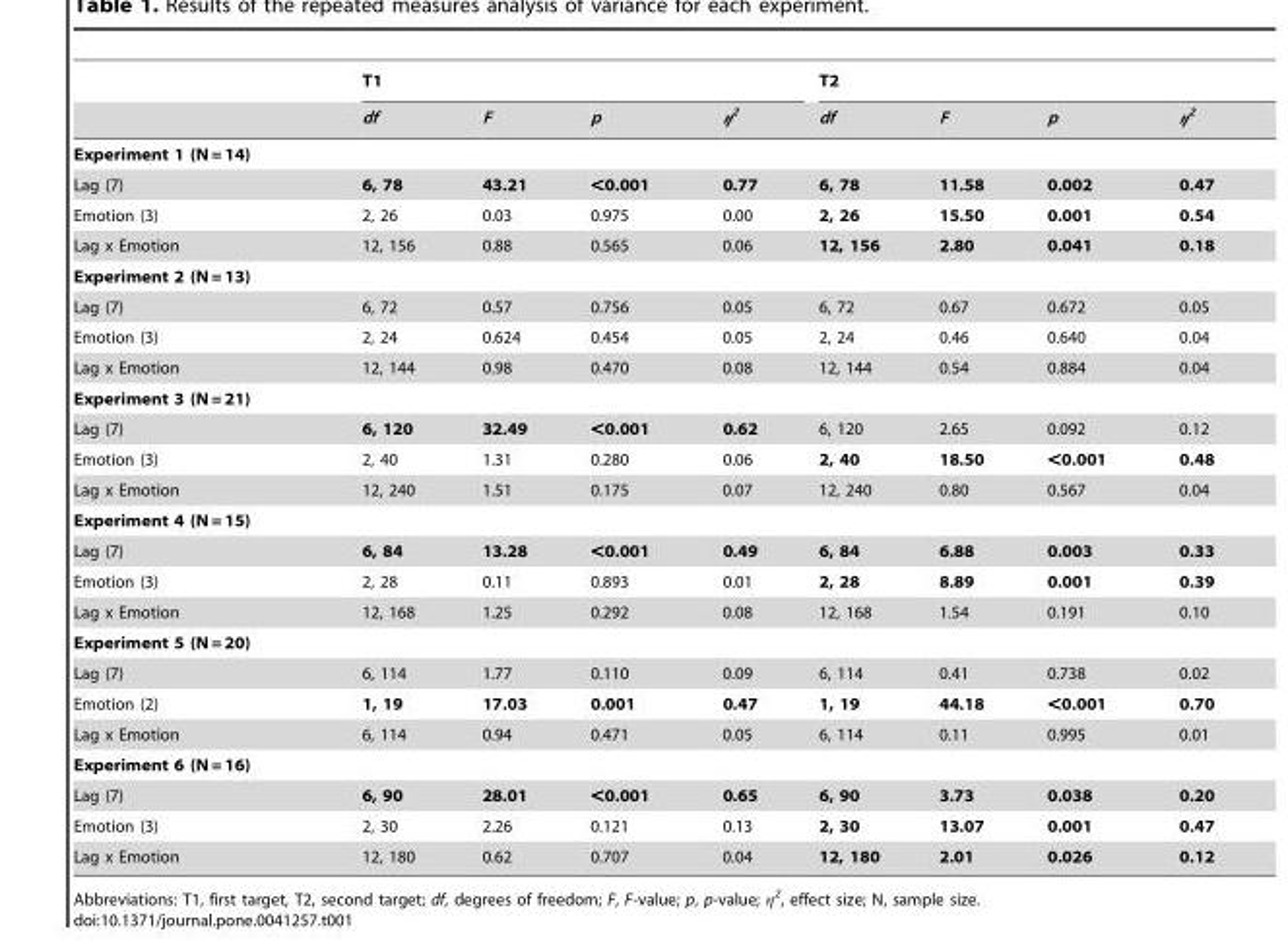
<table><thead><tr><td rowspan="2"></td><td colspan="4">T1</td><td colspan="4">T2</td></tr><tr><td>df</td><td>F</td><td>p</td><td>η<sup>2</sup></td><td>df</td><td>F</td><td>p</td><td>η<sup>2</sup></td></tr></thead><tbody><tr><td colspan="9">Experiment 1 (N = 14)</td></tr><tr><td>Lag (7)</td><td>6, 78</td><td>43.21</td><td>&lt;0.001</td><td>0.77</td><td>6, 78</td><td>11.58</td><td>0.002</td><td>0.47</td></tr><tr><td>Emotion (3)</td><td>2, 26</td><td>0.03</td><td>0.975</td><td>0.00</td><td>2, 26</td><td>15.50</td><td>0.001</td><td>0.54</td></tr><tr><td>Lag x Emotion</td><td>12, 156</td><td>0.88</td><td>0.565</td><td>0.06</td><td>12, 156</td><td>2.80</td><td>0.041</td><td>0.18</td></tr><tr><td colspan="9">Experiment 2 (N = 13)</td></tr><tr><td>Lag (7)</td><td>6, 72</td><td>0.57</td><td>0.756</td><td>0.05</td><td>6, 72</td><td>0.67</td><td>0.672</td><td>0.05</td></tr><tr><td>Emotion (3)</td><td>2, 24</td><td>0.624</td><td>0.454</td><td>0.05</td><td>2, 24</td><td>0.46</td><td>0.640</td><td>0.04</td></tr><tr><td>Lag x Emotion</td><td>12, 144</td><td>0.98</td><td>0.470</td><td>0.08</td><td>12, 144</td><td>0.54</td><td>0.884</td><td>0.04</td></tr><tr><td colspan="9">Experiment 3 (N = 21)</td></tr><tr><td>Lag (7)</td><td>6, 120</td><td>32.49</td><td>&lt;0.001</td><td>0.62</td><td>6, 120</td><td>2.65</td><td>0.092</td><td>0.12</td></tr><tr><td>Emotion (3)</td><td>2, 40</td><td>1.31</td><td>0.280</td><td>0.06</td><td>2, 40</td><td>18.50</td><td>&lt;0.001</td><td>0.48</td></tr><tr><td>Lag x Emotion</td><td>12, 240</td><td>1.51</td><td>0.175</td><td>0.07</td><td>12, 240</td><td>0.80</td><td>0.567</td><td>0.04</td></tr><tr><td colspan="9">Experiment 4 (N = 15)</td></tr><tr><td>Lag (7)</td><td>6, 84</td><td>13.28</td><td>&lt;0.001</td><td>0.49</td><td>6, 84</td><td>6.88</td><td>0.003</td><td>0.33</td></tr><tr><td>Emotion (3)</td><td>2, 28</td><td>0.11</td><td>0.893</td><td>0.01</td><td>2, 28</td><td>8.89</td><td>0.001</td><td>0.39</td></tr><tr><td>Lag x Emotion</td><td>12, 168</td><td>1.25</td><td>0.292</td><td>0.08</td><td>12, 168</td><td>1.54</td><td>0.191</td><td>0.10</td></tr><tr><td colspan="9">Experiment 5 (N = 20)</td></tr><tr><td>Lag (7)</td><td>6, 114</td><td>1.77</td><td>0.110</td><td>0.09</td><td>6, 114</td><td>0.41</td><td>0.738</td><td>0.02</td></tr><tr><td>Emotion (2)</td><td>1, 19</td><td>17.03</td><td>0.001</td><td>0.47</td><td>1, 19</td><td>44.18</td><td>&lt;0.001</td><td>0.70</td></tr><tr><td>Lag x Emotion</td><td>6, 114</td><td>0.94</td><td>0.471</td><td>0.05</td><td>6, 114</td><td>0.11</td><td>0.995</td><td>0.01</td></tr><tr><td colspan="9">Experiment 6 (N = 16)</td></tr><tr><td>Lag (7)</td><td>6, 90</td><td>28.01</td><td>&lt;0.001</td><td>0.65</td><td>6, 90</td><td>3.73</td><td>0.038</td><td>0.20</td></tr><tr><td>Emotion (3)</td><td>2, 30</td><td>2.26</td><td>0.121</td><td>0.13</td><td>2, 30</td><td>13.07</td><td>0.001</td><td>0.47</td></tr><tr><td>Lag x Emotion</td><td>12, 180</td><td>0.62</td><td>0.707</td><td>0.04</td><td>12, 180</td><td>2.01</td><td>0.026</td><td>0.12</td></tr></tbody></table>